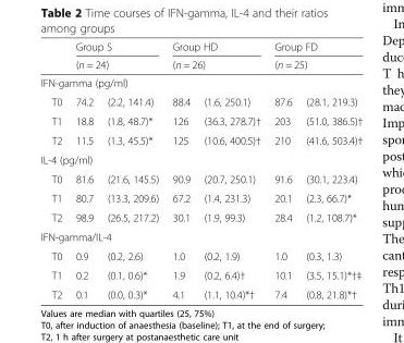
<table><thead><tr><td rowspan="2"></td><td rowspan="2" colspan="2">Group S (n = 24)</td><td rowspan="2" colspan="2">Group HD (n = 26)</td><td rowspan="2" colspan="2">Group FD (n = 25)</td></tr><tr></tr><tr><td colspan="7">IFN-gamma (pg/ml)</td></tr><tr><td>T0</td><td>74.2</td><td>(2.2, 141.4)</td><td>88.4</td><td>(1.6, 250.1)</td><td>87.6</td><td>(28.1, 219.3)</td></tr></thead><tbody><tr><td>T1</td><td>18.8</td><td>(1.8, 48.7)*</td><td>126</td><td>(36.3, 278.7)†</td><td>203</td><td>(51.0, 386.5)†</td></tr><tr><td>T2</td><td>11.5</td><td>(1.3, 45.5)*</td><td>125</td><td>(10.6, 400.5)†</td><td>210</td><td>(41.6, 503.4)†</td></tr><tr><td colspan="7">IL-4 (pg/ml)</td></tr><tr><td>T0</td><td>81.6</td><td>(21.6, 145.5)</td><td>90.9</td><td>(20.7, 250.1)</td><td>91.6</td><td>(30.1, 223.4)</td></tr><tr><td>T1</td><td>80.7</td><td>(13.3, 209.6)</td><td>67.2</td><td>(1.4, 231.3)</td><td>20.1</td><td>(2.3, 66.7)*</td></tr><tr><td>T2</td><td>98.9</td><td>(26.5, 217.2)</td><td>30.1</td><td>(1.9, 99.3)</td><td>28.4</td><td>(1.2, 108.7)*</td></tr><tr><td colspan="7">IFN-gamma/IL-4</td></tr><tr><td>T0</td><td>0.9</td><td>(0.2, 2.6)</td><td>1.0</td><td>(0.2, 1.9)</td><td>1.0</td><td>(0.3, 1.3)</td></tr><tr><td>T1</td><td>0.2</td><td>(0.1, 0.6)*</td><td>1.9</td><td>(0.2, 6.4)†</td><td>10.1</td><td>(3.5, 15.1)*†‡</td></tr><tr><td>T2</td><td>0.1</td><td>(0.0, 0.3)*</td><td>4.1</td><td>(1.1, 10.4)*†</td><td>7.4</td><td>(0.8, 21.8)*†</td></tr></tbody></table>